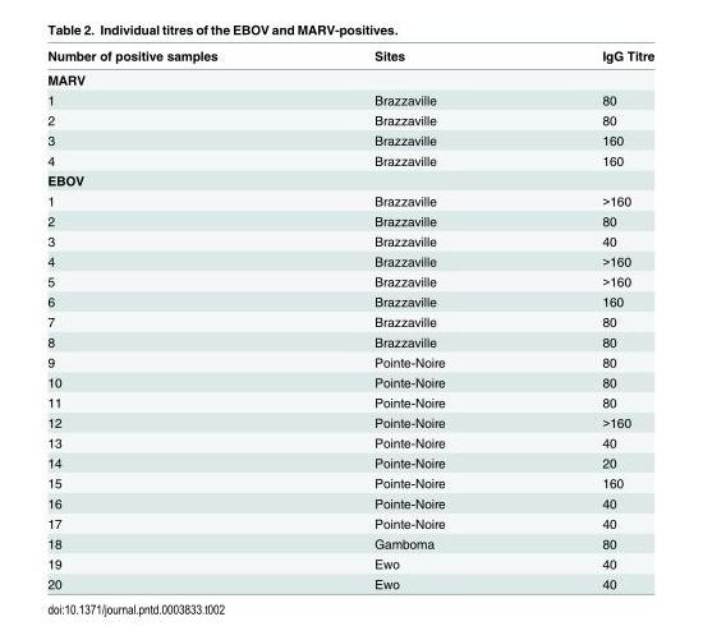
<table><thead><tr><td>Number of positive samples</td><td>Sites</td><td>IgG Titre</td></tr></thead><tbody><tr><td colspan="3">MARV</td></tr><tr><td>1</td><td>Brazzaville</td><td>80</td></tr><tr><td>2</td><td>Brazzaville</td><td>80</td></tr><tr><td>3</td><td>Brazzaville</td><td>160</td></tr><tr><td>4</td><td>Brazzaville</td><td>160</td></tr><tr><td colspan="3">EBOV</td></tr><tr><td>1</td><td>Brazzaville</td><td>&gt;160</td></tr><tr><td>2</td><td>Brazzaville</td><td>80</td></tr><tr><td>3</td><td>Brazzaville</td><td>40</td></tr><tr><td>4</td><td>Brazzaville</td><td>&gt;160</td></tr><tr><td>5</td><td>Brazzaville</td><td>&gt;160</td></tr><tr><td>6</td><td>Brazzaville</td><td>160</td></tr><tr><td>7</td><td>Brazzaville</td><td>80</td></tr><tr><td>8</td><td>Brazzaville</td><td>80</td></tr><tr><td>9</td><td>Pointe-Noire</td><td>80</td></tr><tr><td>10</td><td>Pointe-Noire</td><td>80</td></tr><tr><td>11</td><td>Pointe-Noire</td><td>80</td></tr><tr><td>12</td><td>Pointe-Noire</td><td>&gt;160</td></tr><tr><td>13</td><td>Pointe-Noire</td><td>40</td></tr><tr><td>14</td><td>Pointe-Noire</td><td>20</td></tr><tr><td>15</td><td>Pointe-Noire</td><td>160</td></tr><tr><td>16</td><td>Pointe-Noire</td><td>40</td></tr><tr><td>17</td><td>Pointe-Noire</td><td>40</td></tr><tr><td>18</td><td>Gamboma</td><td>80</td></tr><tr><td>19</td><td>Ewo</td><td>40</td></tr><tr><td>20</td><td>Ewo</td><td>40</td></tr></tbody></table>